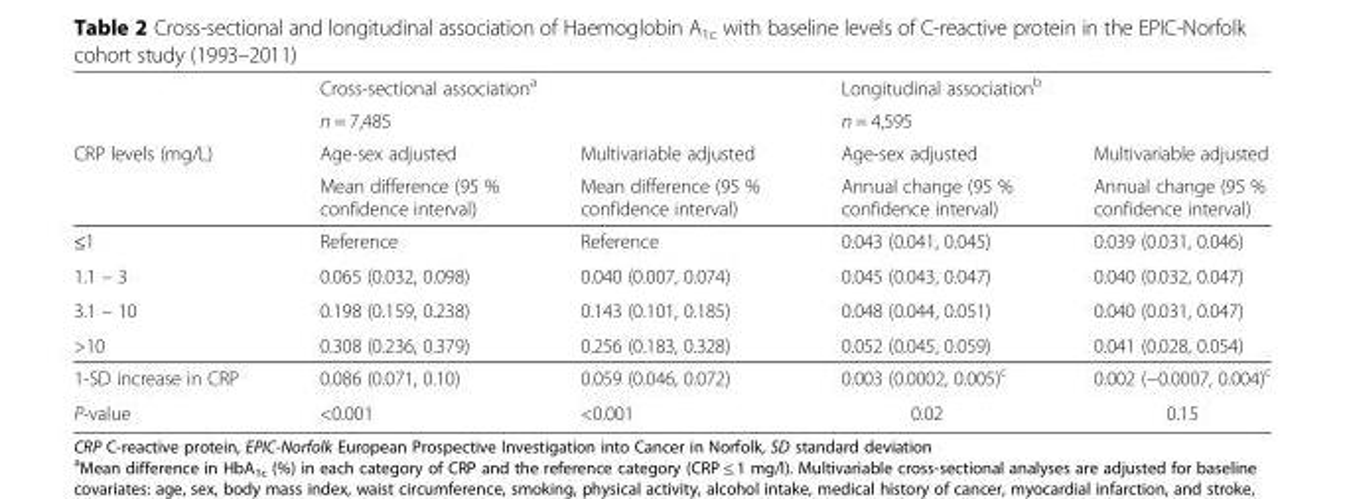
<table><thead><tr><td rowspan="4">CRP levels (mg/L)</td><td rowspan="2" colspan="2">Cross-sectional association<sup>a</sup> n = 7,485</td><td rowspan="2" colspan="2">Longitudinal association<sup>b</sup> n = 4,595</td></tr><tr></tr><tr><td rowspan="2">Age-sex adjusted Mean difference (95 % confidence interval)</td><td rowspan="2">Multivariable adjusted Mean difference (95 % confidence interval)</td><td rowspan="2">Age-sex adjusted Annual change (95 % confidence interval)</td><td rowspan="2">Multivariable adjusted Annual change (95 % confidence interval)</td></tr><tr></tr></thead><tbody><tr><td>≤1</td><td>Reference</td><td>Reference</td><td>0.043 (0.041, 0.045)</td><td>0.039 (0.031, 0.046)</td></tr><tr><td>1.1 – 3</td><td>0.065 (0.032, 0.098)</td><td>0.040 (0.007, 0.074)</td><td>0.045 (0.043, 0.047)</td><td>0.040 (0.032, 0.047)</td></tr><tr><td>3.1 – 10</td><td>0.198 (0.159, 0.238)</td><td>0.143 (0.101, 0.185)</td><td>0.048 (0.044, 0.051)</td><td>0.040 (0.031, 0.047)</td></tr><tr><td>&gt;10</td><td>0.308 (0.236, 0.379)</td><td>0.256 (0.183, 0.328)</td><td>0.052 (0.045, 0.059)</td><td>0.041 (0.028, 0.054)</td></tr><tr><td>1-SD increase in CRP</td><td>0.086 (0.071, 0.10)</td><td>0.059 (0.046, 0.072)</td><td>0.003 (0.0002, 0.005)<sup>c</sup></td><td>0.002 (−0.0007, 0.004)<sup>c</sup></td></tr><tr><td>P-value</td><td>&lt;0.001</td><td>&lt;0.001</td><td>0.02</td><td>0.15</td></tr></tbody></table>